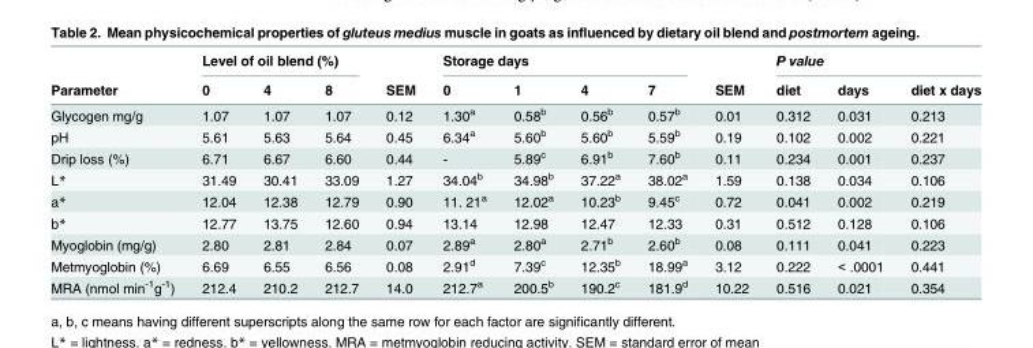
<table><thead><tr><td rowspan="2">Parameter</td><td colspan="3">Level of oil blend (%)</td><td rowspan="2">SEM</td><td colspan="4">Storage days</td><td rowspan="2">SEM</td><td colspan="3">P value</td></tr><tr><td>0</td><td>4</td><td>8</td><td>0</td><td>1</td><td>4</td><td>7</td><td>diet</td><td>days</td><td>diet x days</td></tr></thead><tbody><tr><td>Glycogen mg/g</td><td>1.07</td><td>1.07</td><td>1.07</td><td>0.12</td><td>1.30<sup>a</sup></td><td>0.58<sup>b</sup></td><td>0.56<sup>b</sup></td><td>0.57<sup>b</sup></td><td>0.01</td><td>0.312</td><td>0.031</td><td>0.213</td></tr><tr><td>pH</td><td>5.61</td><td>5.63</td><td>5.64</td><td>0.45</td><td>6.34<sup>a</sup></td><td>5.60<sup>b</sup></td><td>5.60<sup>b</sup></td><td>5.59<sup>b</sup></td><td>0.19</td><td>0.102</td><td>0.002</td><td>0.221</td></tr><tr><td>Drip loss (%)</td><td>6.71</td><td>6.67</td><td>6.60</td><td>0.44</td><td>-</td><td>5.89<sup>c</sup></td><td>6.91<sup>b</sup></td><td>7.60<sup>b</sup></td><td>0.11</td><td>0.234</td><td>0.001</td><td>0.237</td></tr><tr><td>L*</td><td>31.49</td><td>30.41</td><td>33.09</td><td>1.27</td><td>34.04<sup>b</sup></td><td>34.98<sup>b</sup></td><td>37.22<sup>a</sup></td><td>38.02<sup>a</sup></td><td>1.59</td><td>0.138</td><td>0.034</td><td>0.106</td></tr><tr><td>a*</td><td>12.04</td><td>12.38</td><td>12.79</td><td>0.90</td><td>11. 21<sup>a</sup></td><td>12.02<sup>a</sup></td><td>10.23<sup>b</sup></td><td>9.45<sup>c</sup></td><td>0.72</td><td>0.041</td><td>0.002</td><td>0.219</td></tr><tr><td>b*</td><td>12.77</td><td>13.75</td><td>12.60</td><td>0.94</td><td>13.14</td><td>12.98</td><td>12.47</td><td>12.33</td><td>0.31</td><td>0.512</td><td>0.128</td><td>0.106</td></tr><tr><td>Myoglobin (mg/g)</td><td>2.80</td><td>2.81</td><td>2.84</td><td>0.07</td><td>2.89<sup>a</sup></td><td>2.80<sup>a</sup></td><td>2.71<sup>b</sup></td><td>2.60<sup>b</sup></td><td>0.08</td><td>0.111</td><td>0.041</td><td>0.223</td></tr><tr><td>Metmyoglobin (%)</td><td>6.69</td><td>6.55</td><td>6.56</td><td>0.08</td><td>2.91<sup>d</sup></td><td>7.39<sup>c</sup></td><td>12.35<sup>b</sup></td><td>18.99<sup>a</sup></td><td>3.12</td><td>0.222</td><td>&lt; .0001</td><td>0.441</td></tr><tr><td>MRA (nmol min<sup>-1</sup>g<sup>-1</sup>)</td><td>212.4</td><td>210.2</td><td>212.7</td><td>14.0</td><td>212.7<sup>a</sup></td><td>200.5<sup>b</sup></td><td>190.2<sup>c</sup></td><td>181.9<sup>d</sup></td><td>10.22</td><td>0.516</td><td>0.021</td><td>0.354</td></tr></tbody></table>